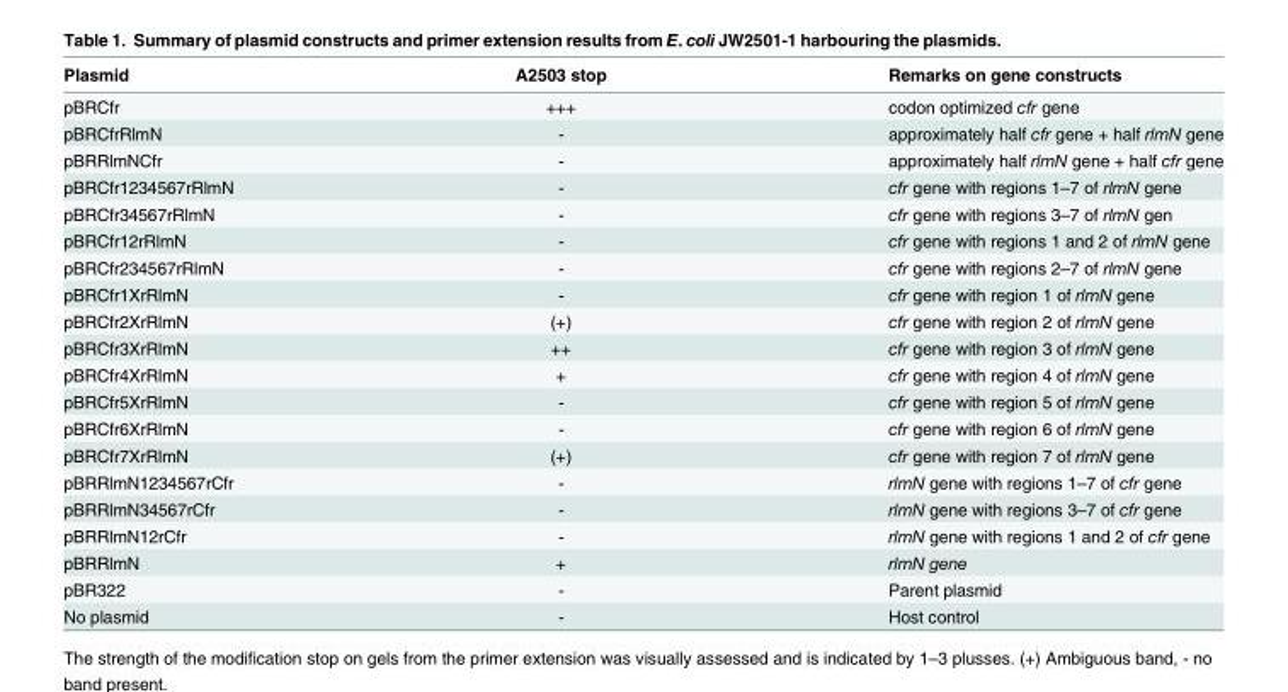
<table><thead><tr><td>Plasmid</td><td>A2503 stop</td><td>Remarks on gene constructs</td></tr></thead><tbody><tr><td>pBRCfr</td><td>+++</td><td>codon optimized cfr gene</td></tr><tr><td>pBRCfrRlmN</td><td>-</td><td>approximately half cfr gene + half rlmN gene</td></tr><tr><td>pBRRlmNCfr</td><td>-</td><td>approximately half rlmN gene + half cfr gene</td></tr><tr><td>pBRCfr1234567rRlmN</td><td>-</td><td>cfr gene with regions 1–7 of rlmN gene</td></tr><tr><td>pBRCfr34567rRlmN</td><td>-</td><td>cfr gene with regions 3–7 of rlmN gen</td></tr><tr><td>pBRCfr12rRlmN</td><td>-</td><td>cfr gene with regions 1 and 2 of rlmN gene</td></tr><tr><td>pBRCfr234567rRlmN</td><td>-</td><td>cfr gene with regions 2–7 of rlmN gene</td></tr><tr><td>pBRCfr1XrRlmN</td><td>-</td><td>cfr gene with region 1 of rlmN gene</td></tr><tr><td>pBRCfr2XrRlmN</td><td>(+)</td><td>cfr gene with region 2 of rlmN gene</td></tr><tr><td>pBRCfr3XrRlmN</td><td>++</td><td>cfr gene with region 3 of rlmN gene</td></tr><tr><td>pBRCfr4XrRlmN</td><td>+</td><td>cfr gene with region 4 of rlmN gene</td></tr><tr><td>pBRCfr5XrRlmN</td><td>-</td><td>cfr gene with region 5 of rlmN gene</td></tr><tr><td>pBRCfr6XrRlmN</td><td>-</td><td>cfr gene with region 6 of rlmN gene</td></tr><tr><td>pBRCfr7XrRlmN</td><td>(+)</td><td>cfr gene with region 7 of rlmN gene</td></tr><tr><td>pBRRlmN1234567rCfr</td><td>-</td><td>rlmN gene with regions 1–7 of cfr gene</td></tr><tr><td>pBRRlmN34567rCfr</td><td>-</td><td>rlmN gene with regions 3–7 of cfr gene</td></tr><tr><td>pBRRlmN12rCfr</td><td>-</td><td>rlmN gene with regions 1 and 2 of cfr gene</td></tr><tr><td>pBRRlmN</td><td>+</td><td>rlmN gene</td></tr><tr><td>pBR322</td><td>-</td><td>Parent plasmid</td></tr><tr><td>No plasmid</td><td>-</td><td>Host control</td></tr></tbody></table>